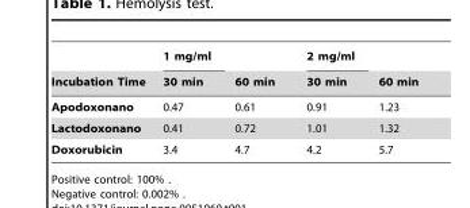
<table><thead><tr><td rowspan="2">Incubation Time</td><td rowspan="2">1 mg/ml 30 min</td><td rowspan="2">60 min</td><td rowspan="2">2 mg/ml 30 min</td><td rowspan="2">60 min</td></tr><tr></tr></thead><tbody><tr><td>Apodoxonano</td><td>0.47</td><td>0.61</td><td>0.91</td><td>1.23</td></tr><tr><td>Lactodoxonano</td><td>0.41</td><td>0.72</td><td>1.01</td><td>1.32</td></tr><tr><td>Doxorubicin</td><td>3.4</td><td>4.7</td><td>4.2</td><td>5.7</td></tr></tbody></table>